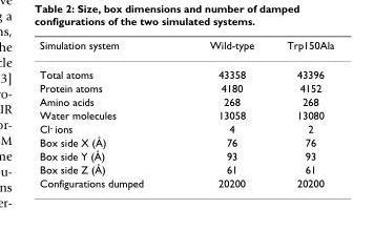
<table><thead><tr><td>Simulation system</td><td>Wild-type</td><td>Trp150Ala</td></tr></thead><tbody><tr><td>Total atoms</td><td>43358</td><td>43396</td></tr><tr><td>Protein atoms</td><td>4180</td><td>4152</td></tr><tr><td>Amino acids</td><td>268</td><td>268</td></tr><tr><td>Water molecules</td><td>13058</td><td>13080</td></tr><tr><td>Cl<sup>-</sup> ions</td><td>4</td><td>2</td></tr><tr><td>Box side X (Å)</td><td>76</td><td>76</td></tr><tr><td>Box side Y (Å)</td><td>93</td><td>93</td></tr><tr><td>Box side Z (Å)</td><td>61</td><td>61</td></tr><tr><td>Configurations dumped</td><td>20200</td><td>20200</td></tr></tbody></table>